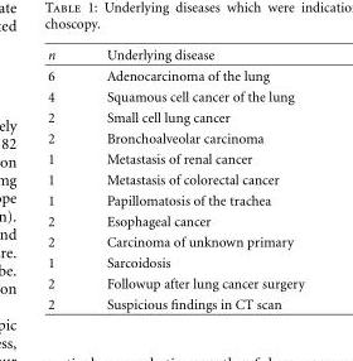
<table><thead><tr><td>n</td><td>Underlying disease</td></tr></thead><tbody><tr><td>6</td><td>Adenocarcinoma of the lung</td></tr><tr><td>4</td><td>Squamous cell cancer of the lung</td></tr><tr><td>2</td><td>Small cell lung cancer</td></tr><tr><td>2</td><td>Bronchoalveolar carcinoma</td></tr><tr><td>1</td><td>Metastasis of renal cancer</td></tr><tr><td>1</td><td>Metastasis of colorectal cancer</td></tr><tr><td>1</td><td>Papillomatosis of the trachea</td></tr><tr><td>2</td><td>Esophageal cancer</td></tr><tr><td>2</td><td>Carcinoma of unknown primary</td></tr><tr><td>1</td><td>Sarcoidosis</td></tr><tr><td>2</td><td>Followup after lung cancer surgery</td></tr><tr><td>2</td><td>Suspicious findings in CT scan</td></tr></tbody></table>